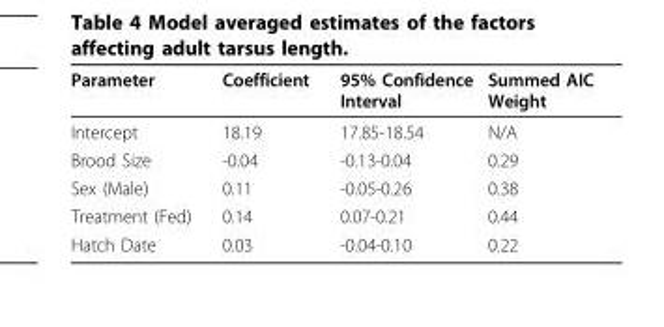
<table><thead><tr><td>Parameter</td><td>Coefficient</td><td>95% Confidence Interval</td><td>Summed AIC Weight</td></tr></thead><tbody><tr><td>Intercept</td><td>18.19</td><td>17.85-18.54</td><td>N/A</td></tr><tr><td>Brood Size</td><td>-0.04</td><td>-0.13-0.04</td><td>0.29</td></tr><tr><td>Sex (Male)</td><td>0.11</td><td>-0.05-0.26</td><td>0.38</td></tr><tr><td>Treatment (Fed)</td><td>0.14</td><td>0.07-0.21</td><td>0.44</td></tr><tr><td>Hatch Date</td><td>0.03</td><td>-0.04-0.10</td><td>0.22</td></tr></tbody></table>